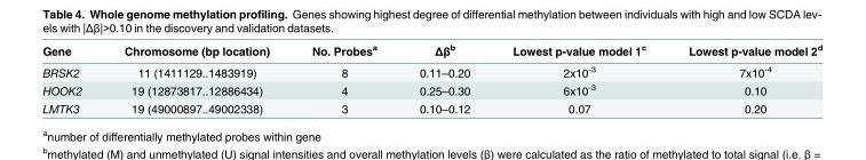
<table><thead><tr><td>Gene</td><td>Chromosome (bp location)</td><td>No. Probes<sup>a</sup></td><td>Δβ<sup>b</sup></td><td>Lowest p-value model 1<sup>c</sup></td><td>Lowest p-value model 2<sup>d</sup></td></tr></thead><tbody><tr><td>BRSK2</td><td>11 (1411129..1483919)</td><td>8</td><td>0.11–0.20</td><td>2x10<sup>-3</sup></td><td>7x10<sup>-4</sup></td></tr><tr><td>HOOK2</td><td>19 (12873817..12886434)</td><td>4</td><td>0.25–0.30</td><td>6x10<sup>-3</sup></td><td>0.10</td></tr><tr><td>LMTK3</td><td>19 (49000897..49002338)</td><td>3</td><td>0.10–0.12</td><td>0.07</td><td>0.20</td></tr></tbody></table>